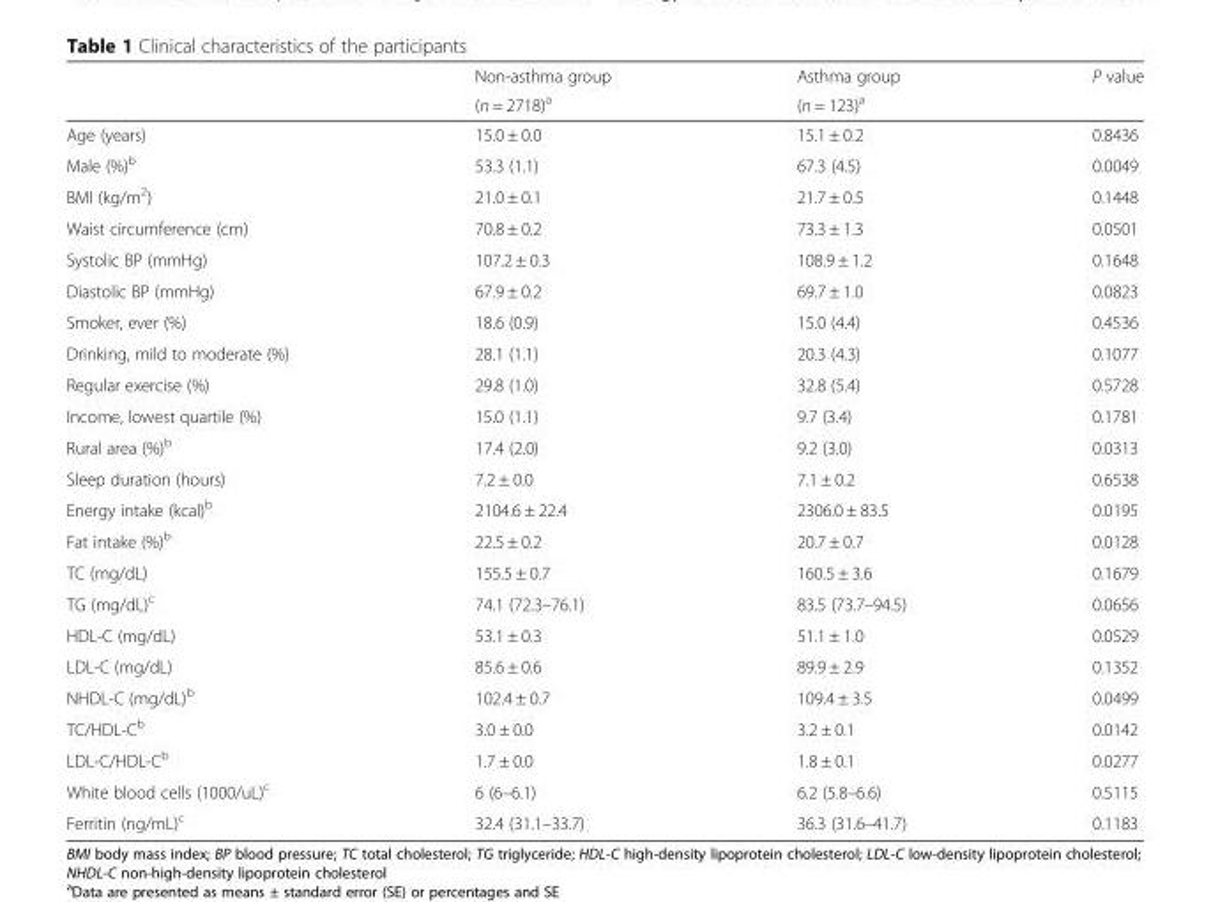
<table><thead><tr><td rowspan="2"></td><td rowspan="2">Non-asthma group (n = 2718)<sup>a</sup></td><td rowspan="2">Asthma group (n = 123)<sup>a</sup></td><td rowspan="2">P value</td></tr><tr></tr></thead><tbody><tr><td>Age (years)</td><td>15.0 ± 0.0</td><td>15.1 ± 0.2</td><td>0.8436</td></tr><tr><td>Male (%)<sup>b</sup></td><td>53.3 (1.1)</td><td>67.3 (4.5)</td><td>0.0049</td></tr><tr><td>BMI (kg/m<sup>2</sup>)</td><td>21.0 ± 0.1</td><td>21.7 ± 0.5</td><td>0.1448</td></tr><tr><td>Waist circumference (cm)</td><td>70.8 ± 0.2</td><td>73.3 ± 1.3</td><td>0.0501</td></tr><tr><td>Systolic BP (mmHg)</td><td>107.2 ± 0.3</td><td>108.9 ± 1.2</td><td>0.1648</td></tr><tr><td>Diastolic BP (mmHg)</td><td>67.9 ± 0.2</td><td>69.7 ± 1.0</td><td>0.0823</td></tr><tr><td>Smoker, ever (%)</td><td>18.6 (0.9)</td><td>15.0 (4.4)</td><td>0.4536</td></tr><tr><td>Drinking, mild to moderate (%)</td><td>28.1 (1.1)</td><td>20.3 (4.3)</td><td>0.1077</td></tr><tr><td>Regular exercise (%)</td><td>29.8 (1.0)</td><td>32.8 (5.4)</td><td>0.5728</td></tr><tr><td>Income, lowest quartile (%)</td><td>15.0 (1.1)</td><td>9.7 (3.4)</td><td>0.1781</td></tr><tr><td>Rural area (%)<sup>b</sup></td><td>17.4 (2.0)</td><td>9.2 (3.0)</td><td>0.0313</td></tr><tr><td>Sleep duration (hours)</td><td>7.2 ± 0.0</td><td>7.1 ± 0.2</td><td>0.6538</td></tr><tr><td>Energy intake (kcal)<sup>b</sup></td><td>2104.6 ± 22.4</td><td>2306.0 ± 83.5</td><td>0.0195</td></tr><tr><td>Fat intake (%)<sup>b</sup></td><td>22.5 ± 0.2</td><td>20.7 ± 0.7</td><td>0.0128</td></tr><tr><td>TC (mg/dL)</td><td>155.5 ± 0.7</td><td>160.5 ± 3.6</td><td>0.1679</td></tr><tr><td>TG (mg/dL)<sup>c</sup></td><td>74.1 (72.3–76.1)</td><td>83.5 (73.7–94.5)</td><td>0.0656</td></tr><tr><td>HDL-C (mg/dL)</td><td>53.1 ± 0.3</td><td>51.1 ± 1.0</td><td>0.0529</td></tr><tr><td>LDL-C (mg/dL)</td><td>85.6 ± 0.6</td><td>89.9 ± 2.9</td><td>0.1352</td></tr><tr><td>NHDL-C (mg/dL)<sup>b</sup></td><td>102.4 ± 0.7</td><td>109.4 ± 3.5</td><td>0.0499</td></tr><tr><td>TC/HDL-C<sup>b</sup></td><td>3.0 ± 0.0</td><td>3.2 ± 0.1</td><td>0.0142</td></tr><tr><td>LDL-C/HDL-C<sup>b</sup></td><td>1.7 ± 0.0</td><td>1.8 ± 0.1</td><td>0.0277</td></tr><tr><td>White blood cells (1000/uL)<sup>c</sup></td><td>6 (6–6.1)</td><td>6.2 (5.8–6.6)</td><td>0.5115</td></tr><tr><td>Ferritin (ng/mL)<sup>c</sup></td><td>32.4 (31.1–33.7)</td><td>36.3 (31.6–41.7)</td><td>0.1183</td></tr></tbody></table>